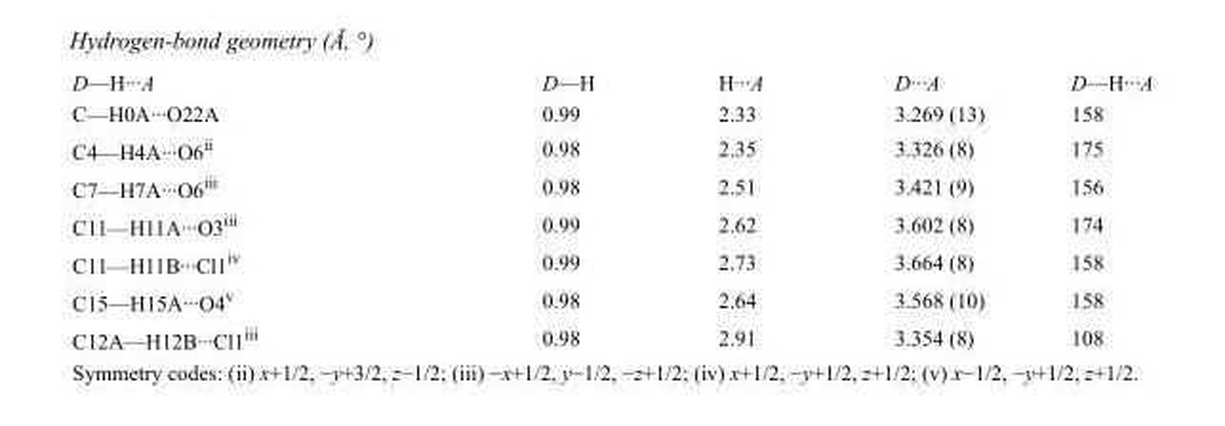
<table><tbody><tr><td>D—H···A</td><td>D—H</td><td>H···A</td><td>D···A</td><td>D—H···A</td></tr><tr><td>C—H0A···O22A</td><td>0.99</td><td>2.33</td><td>3.269 (13)</td><td>158</td></tr><tr><td>C4—H4A···O6<sup>ii</sup></td><td>0.98</td><td>2.35</td><td>3.326 (8)</td><td>175</td></tr><tr><td>C7—H7A···O6<sup>iii</sup></td><td>0.98</td><td>2.51</td><td>3.421 (9)</td><td>156</td></tr><tr><td>C11—H11A···O3<sup>iii</sup></td><td>0.99</td><td>2.62</td><td>3.602 (8)</td><td>174</td></tr><tr><td>C11—H11B···Cl1<sup>iv</sup></td><td>0.99</td><td>2.73</td><td>3.664 (8)</td><td>158</td></tr><tr><td>C15—H15A···O4<sup>v</sup></td><td>0.98</td><td>2.64</td><td>3.568 (10)</td><td>158</td></tr><tr><td>C12A—H12B···Cl1<sup>iii</sup></td><td>0.98</td><td>2.91</td><td>3.354 (8)</td><td>108</td></tr></tbody></table>